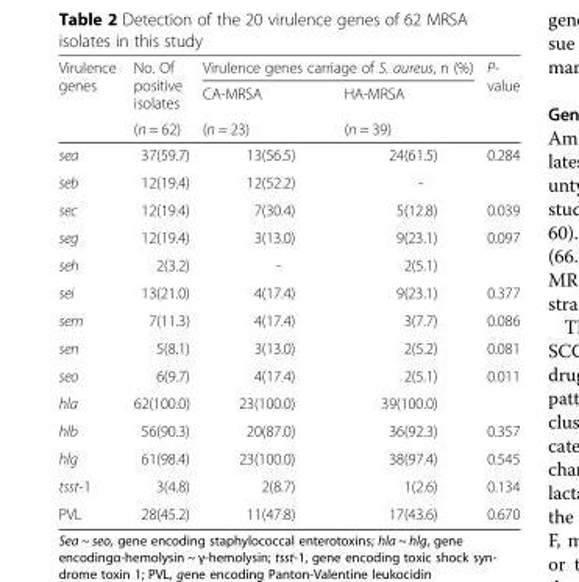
<table><thead><tr><td rowspan="3">Virulence genes</td><td rowspan="3">No. Of positive isolates (n = 62)</td><td colspan="2">Virulence genes carriage of S. aureus, n (%)</td><td rowspan="3">P- value</td></tr><tr><td rowspan="2">CA-MRSA (n = 23)</td><td rowspan="2">HA-MRSA (n = 39)</td></tr><tr></tr></thead><tbody><tr><td>sea</td><td>37(59.7)</td><td>13(56.5)</td><td>24(61.5)</td><td>0.284</td></tr><tr><td>seb</td><td>12(19.4)</td><td>12(52.2)</td><td>-</td><td></td></tr><tr><td>sec</td><td>12(19.4)</td><td>7(30.4)</td><td>5(12.8)</td><td>0.039</td></tr><tr><td>seg</td><td>12(19.4)</td><td>3(13.0)</td><td>9(23.1)</td><td>0.097</td></tr><tr><td>seh</td><td>2(3.2)</td><td>-</td><td>2(5.1)</td><td></td></tr><tr><td>sei</td><td>13(21.0)</td><td>4(17.4)</td><td>9(23.1)</td><td>0.377</td></tr><tr><td>sem</td><td>7(11.3)</td><td>4(17.4)</td><td>3(7.7)</td><td>0.086</td></tr><tr><td>sen</td><td>5(8.1)</td><td>3(13.0)</td><td>2(5.2)</td><td>0.081</td></tr><tr><td>seo</td><td>6(9.7)</td><td>4(17.4)</td><td>2(5.1)</td><td>0.011</td></tr><tr><td>hla</td><td>62(100.0)</td><td>23(100.0)</td><td>39(100.0)</td><td></td></tr><tr><td>hlb</td><td>56(90.3)</td><td>20(87.0)</td><td>36(92.3)</td><td>0.357</td></tr><tr><td>hlg</td><td>61(98.4)</td><td>23(100.0)</td><td>38(97.4)</td><td>0.545</td></tr><tr><td>tsst-1</td><td>3(4.8)</td><td>2(8.7)</td><td>1(2.6)</td><td>0.134</td></tr><tr><td>PVL</td><td>28(45.2)</td><td>11(47.8)</td><td>17(43.6)</td><td>0.670</td></tr></tbody></table>